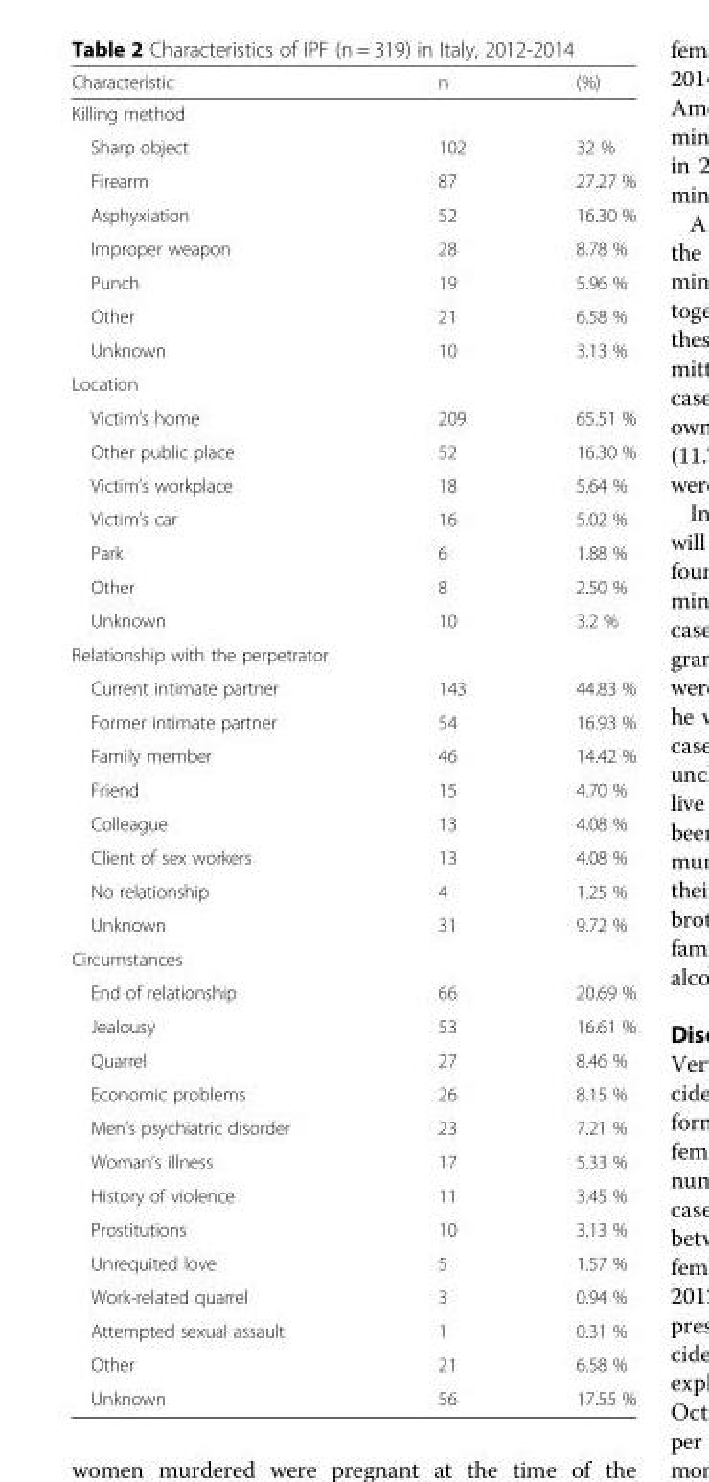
<table><thead><tr><td>Characteristic</td><td>n</td><td>(%)</td></tr></thead><tbody><tr><td colspan="3">Killing method</td></tr><tr><td>Sharp object</td><td>102</td><td>32 %</td></tr><tr><td>Firearm</td><td>87</td><td>27.27 %</td></tr><tr><td>Asphyxiation</td><td>52</td><td>16.30 %</td></tr><tr><td>Improper weapon</td><td>28</td><td>8.78 %</td></tr><tr><td>Punch</td><td>19</td><td>5.96 %</td></tr><tr><td>Other</td><td>21</td><td>6.58 %</td></tr><tr><td>Unknown</td><td>10</td><td>3.13 %</td></tr><tr><td colspan="3">Location</td></tr><tr><td>Victim’s home</td><td>209</td><td>65.51 %</td></tr><tr><td>Other public place</td><td>52</td><td>16.30 %</td></tr><tr><td>Victim’s workplace</td><td>18</td><td>5.64 %</td></tr><tr><td>Victim’s car</td><td>16</td><td>5.02 %</td></tr><tr><td>Park</td><td>6</td><td>1.88 %</td></tr><tr><td>Other</td><td>8</td><td>2.50 %</td></tr><tr><td>Unknown</td><td>10</td><td>3.2 %</td></tr><tr><td colspan="3">Relationship with the perpetrator</td></tr><tr><td>Current intimate partner</td><td>143</td><td>44.83 %</td></tr><tr><td>Former intimate partner</td><td>54</td><td>16.93 %</td></tr><tr><td>Family member</td><td>46</td><td>14.42 %</td></tr><tr><td>Friend</td><td>15</td><td>4.70 %</td></tr><tr><td>Colleague</td><td>13</td><td>4.08 %</td></tr><tr><td>Client of sex workers</td><td>13</td><td>4.08 %</td></tr><tr><td>No relationship</td><td>4</td><td>1.25 %</td></tr><tr><td>Unknown</td><td>31</td><td>9.72 %</td></tr><tr><td colspan="3">Circumstances</td></tr><tr><td>End of relationship</td><td>66</td><td>20.69 %</td></tr><tr><td>Jealousy</td><td>53</td><td>16.61 %</td></tr><tr><td>Quarrel</td><td>27</td><td>8.46 %</td></tr><tr><td>Economic problems</td><td>26</td><td>8.15 %</td></tr><tr><td>Men’s psychiatric disorder</td><td>23</td><td>7.21 %</td></tr><tr><td>Woman’s illness</td><td>17</td><td>5.33 %</td></tr><tr><td>History of violence</td><td>11</td><td>3.45 %</td></tr><tr><td>Prostitutions</td><td>10</td><td>3.13 %</td></tr><tr><td>Unrequited love</td><td>5</td><td>1.57 %</td></tr><tr><td>Work-related quarrel</td><td>3</td><td>0.94 %</td></tr><tr><td>Attempted sexual assault</td><td>1</td><td>0.31 %</td></tr><tr><td>Other</td><td>21</td><td>6.58 %</td></tr><tr><td>Unknown</td><td>56</td><td>17.55 %</td></tr></tbody></table>